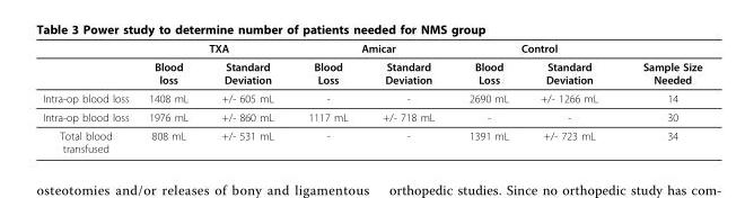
<table><thead><tr><td rowspan="2"></td><td colspan="2">TXA</td><td colspan="2">Amicar</td><td colspan="2">Control</td><td rowspan="2">Sample Size Needed</td></tr><tr><td>Blood loss</td><td>Standard Deviation</td><td>Blood Loss</td><td>Standard Deviation</td><td>Blood Loss</td><td>Standard Deviation</td></tr></thead><tbody><tr><td>Intra-op blood loss</td><td>1408 mL</td><td>+/- 605 mL</td><td>-</td><td>-</td><td>2690 mL</td><td>+/- 1266 mL</td><td>14</td></tr><tr><td>Intra-op blood loss</td><td>1976 mL</td><td>+/- 860 mL</td><td>1117 mL</td><td>+/- 718 mL</td><td>-</td><td>-</td><td>30</td></tr><tr><td>Total blood transfused</td><td>808 mL</td><td>+/- 531 mL</td><td>-</td><td>-</td><td>1391 mL</td><td>+/- 723 mL</td><td>34</td></tr></tbody></table>